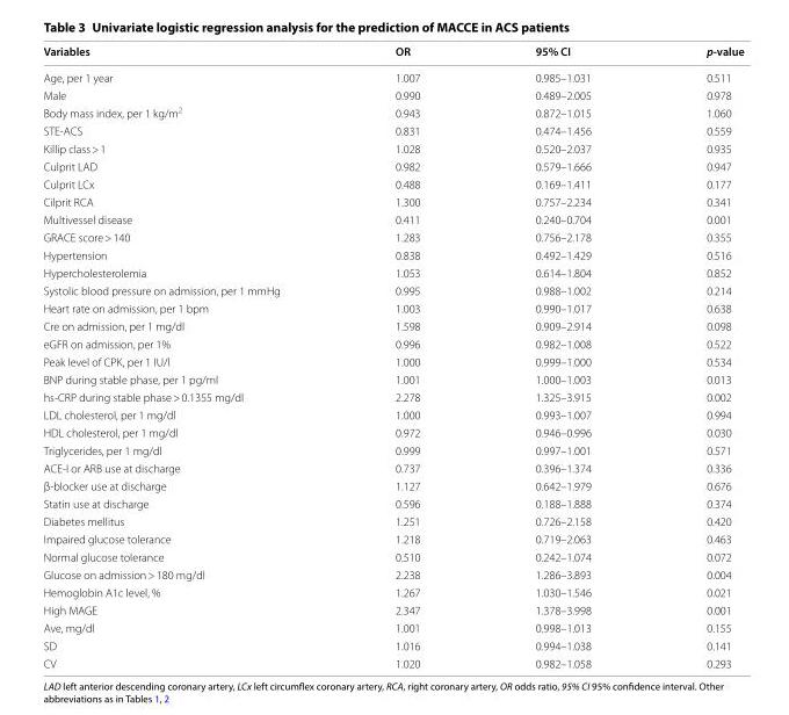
<table><thead><tr><td>Variables</td><td>OR</td><td>95% CI</td><td>p‑value</td></tr></thead><tbody><tr><td>Age, per 1 year</td><td>1.007</td><td>0.985–1.031</td><td>0.511</td></tr><tr><td>Male</td><td>0.990</td><td>0.489–2.005</td><td>0.978</td></tr><tr><td>Body mass index, per 1 kg/m<sup>2</sup></td><td>0.943</td><td>0.872–1.015</td><td>1.060</td></tr><tr><td>STE-ACS</td><td>0.831</td><td>0.474–1.456</td><td>0.559</td></tr><tr><td>Killip class &gt; 1</td><td>1.028</td><td>0.520–2.037</td><td>0.935</td></tr><tr><td>Culprit LAD</td><td>0.982</td><td>0.579–1.666</td><td>0.947</td></tr><tr><td>Culprit LCx</td><td>0.488</td><td>0.169–1.411</td><td>0.177</td></tr><tr><td>Cilprit RCA</td><td>1.300</td><td>0.757–2.234</td><td>0.341</td></tr><tr><td>Multivessel disease</td><td>0.411</td><td>0.240–0.704</td><td>0.001</td></tr><tr><td>GRACE score &gt; 140</td><td>1.283</td><td>0.756–2.178</td><td>0.355</td></tr><tr><td>Hypertension</td><td>0.838</td><td>0.492–1.429</td><td>0.516</td></tr><tr><td>Hypercholesterolemia</td><td>1.053</td><td>0.614–1.804</td><td>0.852</td></tr><tr><td>Systolic blood pressure on admission, per 1 mmHg</td><td>0.995</td><td>0.988–1.002</td><td>0.214</td></tr><tr><td>Heart rate on admission, per 1 bpm</td><td>1.003</td><td>0.990–1.017</td><td>0.638</td></tr><tr><td>Cre on admission, per 1 mg/dl</td><td>1.598</td><td>0.909–2.914</td><td>0.098</td></tr><tr><td>eGFR on admission, per 1%</td><td>0.996</td><td>0.982–1.008</td><td>0.522</td></tr><tr><td>Peak level of CPK, per 1 IU/l</td><td>1.000</td><td>0.999–1.000</td><td>0.534</td></tr><tr><td>BNP during stable phase, per 1 pg/ml</td><td>1.001</td><td>1.000–1.003</td><td>0.013</td></tr><tr><td>hs-CRP during stable phase &gt; 0.1355 mg/dl</td><td>2.278</td><td>1.325–3.915</td><td>0.002</td></tr><tr><td>LDL cholesterol, per 1 mg/dl</td><td>1.000</td><td>0.993–1.007</td><td>0.994</td></tr><tr><td>HDL cholesterol, per 1 mg/dl</td><td>0.972</td><td>0.946–0.996</td><td>0.030</td></tr><tr><td>Triglycerides, per 1 mg/dl</td><td>0.999</td><td>0.997–1.001</td><td>0.571</td></tr><tr><td>ACE-I or ARB use at discharge</td><td>0.737</td><td>0.396–1.374</td><td>0.336</td></tr><tr><td>β-blocker use at discharge</td><td>1.127</td><td>0.642–1.979</td><td>0.676</td></tr><tr><td>Statin use at discharge</td><td>0.596</td><td>0.188–1.888</td><td>0.374</td></tr><tr><td>Diabetes mellitus</td><td>1.251</td><td>0.726–2.158</td><td>0.420</td></tr><tr><td>Impaired glucose tolerance</td><td>1.218</td><td>0.719–2.063</td><td>0.463</td></tr><tr><td>Normal glucose tolerance</td><td>0.510</td><td>0.242–1.074</td><td>0.072</td></tr><tr><td>Glucose on admission &gt; 180 mg/dl</td><td>2.238</td><td>1.286–3.893</td><td>0.004</td></tr><tr><td>Hemoglobin A1c level, %</td><td>1.267</td><td>1.030–1.546</td><td>0.021</td></tr><tr><td>High MAGE</td><td>2.347</td><td>1.378–3.998</td><td>0.001</td></tr><tr><td>Ave, mg/dl</td><td>1.001</td><td>0.998–1.013</td><td>0.155</td></tr><tr><td>SD</td><td>1.016</td><td>0.994–1.038</td><td>0.141</td></tr><tr><td>CV</td><td>1.020</td><td>0.982–1.058</td><td>0.293</td></tr></tbody></table>